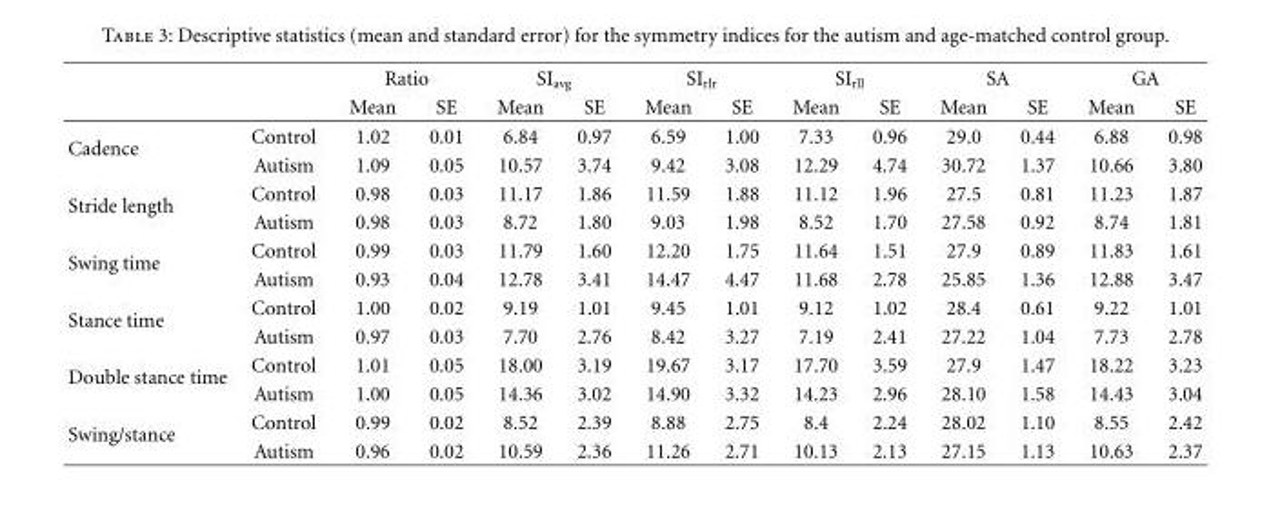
<table><thead><tr><td rowspan="2"></td><td rowspan="2"></td><td colspan="2">Ratio</td><td colspan="2">SI<sub>avg</sub></td><td colspan="2">SI<sub>rlr</sub></td><td colspan="2">SI<sub>rll</sub></td><td colspan="2">SA</td><td colspan="2">GA</td></tr><tr><td>Mean</td><td>SE</td><td>Mean</td><td>SE</td><td>Mean</td><td>SE</td><td>Mean</td><td>SE</td><td>Mean</td><td>SE</td><td>Mean</td><td>SE</td></tr></thead><tbody><tr><td rowspan="2">Cadence</td><td>Control</td><td>1.02</td><td>0.01</td><td>6.84</td><td>0.97</td><td>6.59</td><td>1.00</td><td>7.33</td><td>0.96</td><td>29.0</td><td>0.44</td><td>6.88</td><td>0.98</td></tr><tr><td>Autism</td><td>1.09</td><td>0.05</td><td>10.57</td><td>3.74</td><td>9.42</td><td>3.08</td><td>12.29</td><td>4.74</td><td>30.72</td><td>1.37</td><td>10.66</td><td>3.80</td></tr><tr><td rowspan="2">Stride length</td><td>Control</td><td>0.98</td><td>0.03</td><td>11.17</td><td>1.86</td><td>11.59</td><td>1.88</td><td>11.12</td><td>1.96</td><td>27.5</td><td>0.81</td><td>11.23</td><td>1.87</td></tr><tr><td>Autism</td><td>0.98</td><td>0.03</td><td>8.72</td><td>1.80</td><td>9.03</td><td>1.98</td><td>8.52</td><td>1.70</td><td>27.58</td><td>0.92</td><td>8.74</td><td>1.81</td></tr><tr><td rowspan="2">Swing time</td><td>Control</td><td>0.99</td><td>0.03</td><td>11.79</td><td>1.60</td><td>12.20</td><td>1.75</td><td>11.64</td><td>1.51</td><td>27.9</td><td>0.89</td><td>11.83</td><td>1.61</td></tr><tr><td>Autism</td><td>0.93</td><td>0.04</td><td>12.78</td><td>3.41</td><td>14.47</td><td>4.47</td><td>11.68</td><td>2.78</td><td>25.85</td><td>1.36</td><td>12.88</td><td>3.47</td></tr><tr><td rowspan="2">Stance time</td><td>Control</td><td>1.00</td><td>0.02</td><td>9.19</td><td>1.01</td><td>9.45</td><td>1.01</td><td>9.12</td><td>1.02</td><td>28.4</td><td>0.61</td><td>9.22</td><td>1.01</td></tr><tr><td>Autism</td><td>0.97</td><td>0.03</td><td>7.70</td><td>2.76</td><td>8.42</td><td>3.27</td><td>7.19</td><td>2.41</td><td>27.22</td><td>1.04</td><td>7.73</td><td>2.78</td></tr><tr><td rowspan="2">Double stance time</td><td>Control</td><td>1.01</td><td>0.05</td><td>18.00</td><td>3.19</td><td>19.67</td><td>3.17</td><td>17.70</td><td>3.59</td><td>27.9</td><td>1.47</td><td>18.22</td><td>3.23</td></tr><tr><td>Autism</td><td>1.00</td><td>0.05</td><td>14.36</td><td>3.02</td><td>14.90</td><td>3.32</td><td>14.23</td><td>2.96</td><td>28.10</td><td>1.58</td><td>14.43</td><td>3.04</td></tr><tr><td rowspan="2">Swing/stance</td><td>Control</td><td>0.99</td><td>0.02</td><td>8.52</td><td>2.39</td><td>8.88</td><td>2.75</td><td>8.4</td><td>2.24</td><td>28.02</td><td>1.10</td><td>8.55</td><td>2.42</td></tr><tr><td>Autism</td><td>0.96</td><td>0.02</td><td>10.59</td><td>2.36</td><td>11.26</td><td>2.71</td><td>10.13</td><td>2.13</td><td>27.15</td><td>1.13</td><td>10.63</td><td>2.37</td></tr></tbody></table>